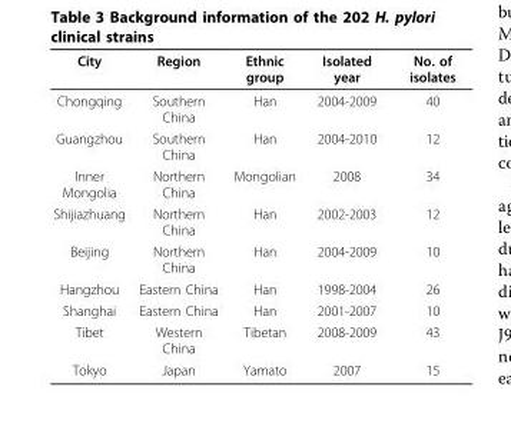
<table><thead><tr><td>City</td><td>Region</td><td>Ethnic group</td><td>Isolated year</td><td>No. of isolates</td></tr></thead><tbody><tr><td>Chongqing</td><td>Southern China</td><td>Han</td><td>2004-2009</td><td>40</td></tr><tr><td>Guangzhou</td><td>Southern China</td><td>Han</td><td>2004-2010</td><td>12</td></tr><tr><td>Inner Mongolia</td><td>Northern China</td><td>Mongolian</td><td>2008</td><td>34</td></tr><tr><td>Shijiazhuang</td><td>Northern China</td><td>Han</td><td>2002-2003</td><td>12</td></tr><tr><td>Beijing</td><td>Northern China</td><td>Han</td><td>2004-2009</td><td>10</td></tr><tr><td>Hangzhou</td><td>Eastern China</td><td>Han</td><td>1998-2004</td><td>26</td></tr><tr><td>Shanghai</td><td>Eastern China</td><td>Han</td><td>2001-2007</td><td>10</td></tr><tr><td>Tibet</td><td>Western China</td><td>Tibetan</td><td>2008-2009</td><td>43</td></tr><tr><td>Tokyo</td><td>Japan</td><td>Yamato</td><td>2007</td><td>15</td></tr></tbody></table>